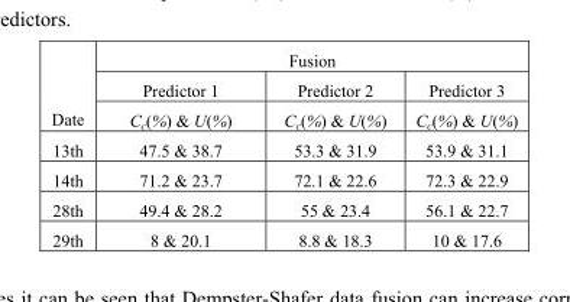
<table><thead><tr><td rowspan="3">Date</td><td colspan="3">Fusion</td></tr><tr><td rowspan="2">Predictor 1 C<sub>c</sub>(%) &amp; U(%)</td><td rowspan="2">Predictor 2 C<sub>c</sub>(%) &amp; U(%)</td><td rowspan="2">Predictor 3 C<sub>c</sub>(%) &amp; U(%)</td></tr><tr></tr></thead><tbody><tr><td>13th</td><td>47.5 &amp; 38.7</td><td>53.3 &amp; 31.9</td><td>53.9 &amp; 31.1</td></tr><tr><td>14th</td><td>71.2 &amp; 23.7</td><td>72.1 &amp; 22.6</td><td>72.3 &amp; 22.9</td></tr><tr><td>28th</td><td>49.4 &amp; 28.2</td><td>55 &amp; 23.4</td><td>56.1 &amp; 22.7</td></tr><tr><td>29th</td><td>8 &amp; 20.1</td><td>8.8 &amp; 18.3</td><td>10 &amp; 17.6</td></tr></tbody></table>